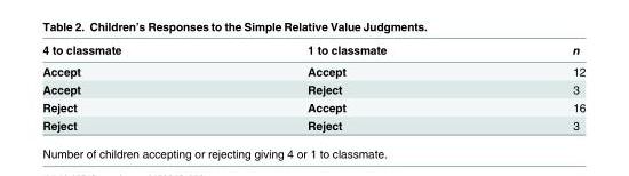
<table><thead><tr><td>4 to classmate</td><td>1 to classmate</td><td>n</td></tr></thead><tbody><tr><td>Accept</td><td>Accept</td><td>12</td></tr><tr><td>Accept</td><td>Reject</td><td>3</td></tr><tr><td>Reject</td><td>Accept</td><td>16</td></tr><tr><td>Reject</td><td>Reject</td><td>3</td></tr></tbody></table>